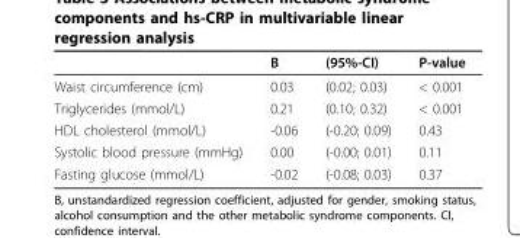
<table><thead><tr><td></td><td>B</td><td>(95%-CI)</td><td>P-value</td></tr></thead><tbody><tr><td>Waist circumference (cm)</td><td>0.03</td><td>(0.02; 0.03)</td><td>&lt; 0.001</td></tr><tr><td>Triglycerides (mmol/L)</td><td>0.21</td><td>(0.10; 0.32)</td><td>&lt; 0.001</td></tr><tr><td>HDL cholesterol (mmol/L)</td><td>-0.06</td><td>(-0.20; 0.09)</td><td>0.43</td></tr><tr><td>Systolic blood pressure (mmHg)</td><td>0.00</td><td>(-0.00; 0.01)</td><td>0.11</td></tr><tr><td>Fasting glucose (mmol/L)</td><td>-0.02</td><td>(-0.08; 0.03)</td><td>0.37</td></tr></tbody></table>